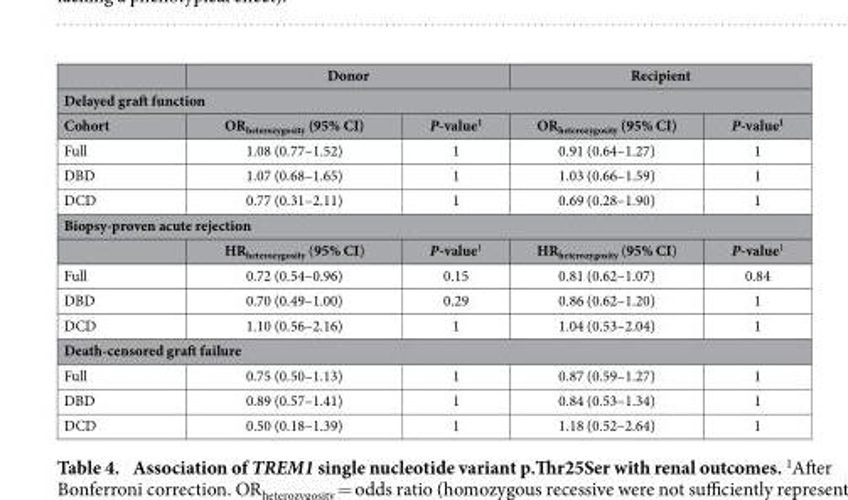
<table><thead><tr><td></td><td colspan="2">Donor</td><td colspan="2">Recipient</td></tr><tr><td colspan="5">Delayed graft function</td></tr><tr><td>Cohort</td><td>OR<sub>heterozygosity</sub> (95% CI)</td><td>P-value<sup>1</sup></td><td>OR<sub>heterozygosity</sub> (95% CI)</td><td>P-value<sup>1</sup></td></tr></thead><tbody><tr><td>Full</td><td>1.08 (0.77–1.52)</td><td>1</td><td>0.91 (0.64–1.27)</td><td>1</td></tr><tr><td>DBD</td><td>1.07 (0.68–1.65)</td><td>1</td><td>1.03 (0.66–1.59)</td><td>1</td></tr><tr><td>DCD</td><td>0.77 (0.31–2.11)</td><td>1</td><td>0.69 (0.28–1.90)</td><td>1</td></tr><tr><td colspan="5">Biopsy-proven acute rejection</td></tr><tr><td></td><td>HR<sub>heterozygosity</sub> (95% CI)</td><td>P-value<sup>1</sup></td><td>HR<sub>heterozygosity</sub> (95% CI)</td><td>P-value<sup>1</sup></td></tr><tr><td>Full</td><td>0.72 (0.54–0.96)</td><td>0.15</td><td>0.81 (0.62–1.07)</td><td>0.84</td></tr><tr><td>DBD</td><td>0.70 (0.49–1.00)</td><td>0.29</td><td>0.86 (0.62–1.20)</td><td>1</td></tr><tr><td>DCD</td><td>1.10 (0.56–2.16)</td><td>1</td><td>1.04 (0.53–2.04)</td><td>1</td></tr><tr><td colspan="5">Death-censored graft failure</td></tr><tr><td>Full</td><td>0.75 (0.50–1.13)</td><td>1</td><td>0.87 (0.59–1.27)</td><td>1</td></tr><tr><td>DBD</td><td>0.89 (0.57–1.41)</td><td>1</td><td>0.84 (0.53–1.34)</td><td>1</td></tr><tr><td>DCD</td><td>0.50 (0.18–1.39)</td><td>1</td><td>1.18 (0.52–2.64)</td><td>1</td></tr></tbody></table>